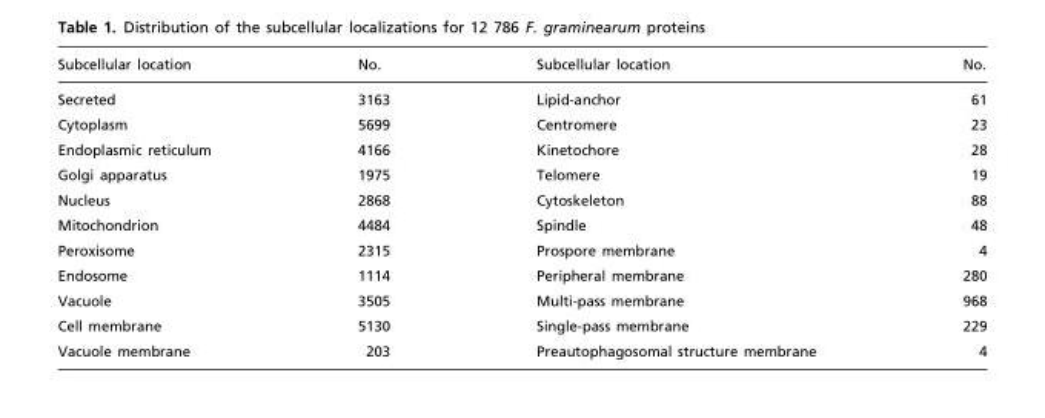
<table><thead><tr><td>Subcellular location</td><td>No.</td><td>Subcellular location</td><td>No.</td></tr></thead><tbody><tr><td>Secreted</td><td>3163</td><td>Lipid-anchor</td><td>61</td></tr><tr><td>Cytoplasm</td><td>5699</td><td>Centromere</td><td>23</td></tr><tr><td>Endoplasmic reticulum</td><td>4166</td><td>Kinetochore</td><td>28</td></tr><tr><td>Golgi apparatus</td><td>1975</td><td>Telomere</td><td>19</td></tr><tr><td>Nucleus</td><td>2868</td><td>Cytoskeleton</td><td>88</td></tr><tr><td>Mitochondrion</td><td>4484</td><td>Spindle</td><td>48</td></tr><tr><td>Peroxisome</td><td>2315</td><td>Prospore membrane</td><td>4</td></tr><tr><td>Endosome</td><td>1114</td><td>Peripheral membrane</td><td>280</td></tr><tr><td>Vacuole</td><td>3505</td><td>Multi-pass membrane</td><td>968</td></tr><tr><td>Cell membrane</td><td>5130</td><td>Single-pass membrane</td><td>229</td></tr><tr><td>Vacuole membrane</td><td>203</td><td>Preautophagosomal structure membrane</td><td>4</td></tr></tbody></table>